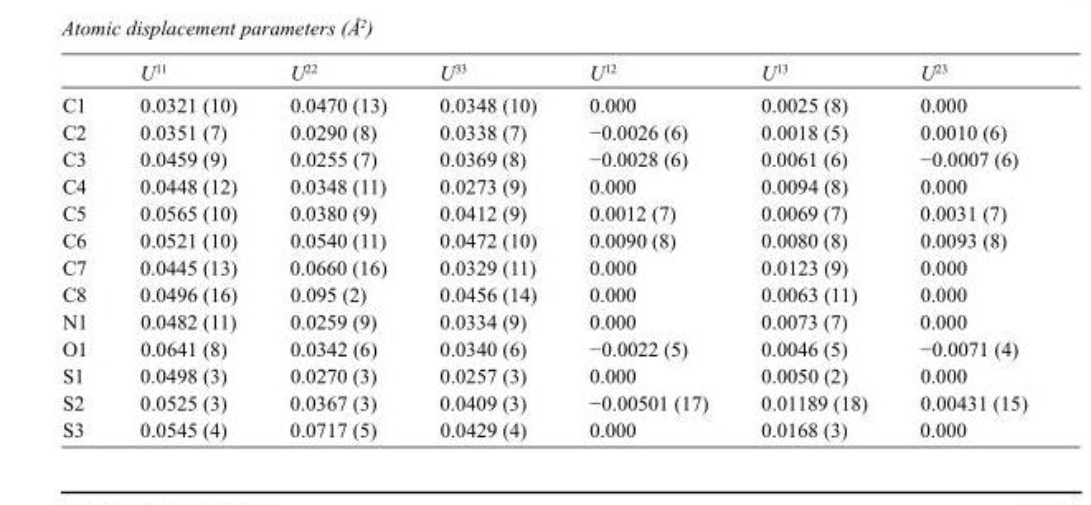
<table><thead><tr><td></td><td>U<sup>11</sup></td><td>U<sup>22</sup></td><td>U<sup>33</sup></td><td>U<sup>12</sup></td><td>U<sup>13</sup></td><td>U<sup>23</sup></td></tr></thead><tbody><tr><td>C1</td><td>0.0321 (10)</td><td>0.0470 (13)</td><td>0.0348 (10)</td><td>0.000</td><td>0.0025 (8)</td><td>0.000</td></tr><tr><td>C2</td><td>0.0351 (7)</td><td>0.0290 (8)</td><td>0.0338 (7)</td><td>−0.0026 (6)</td><td>0.0018 (5)</td><td>0.0010 (6)</td></tr><tr><td>C3</td><td>0.0459 (9)</td><td>0.0255 (7)</td><td>0.0369 (8)</td><td>−0.0028 (6)</td><td>0.0061 (6)</td><td>−0.0007 (6)</td></tr><tr><td>C4</td><td>0.0448 (12)</td><td>0.0348 (11)</td><td>0.0273 (9)</td><td>0.000</td><td>0.0094 (8)</td><td>0.000</td></tr><tr><td>C5</td><td>0.0565 (10)</td><td>0.0380 (9)</td><td>0.0412 (9)</td><td>0.0012 (7)</td><td>0.0069 (7)</td><td>0.0031 (7)</td></tr><tr><td>C6</td><td>0.0521 (10)</td><td>0.0540 (11)</td><td>0.0472 (10)</td><td>0.0090 (8)</td><td>0.0080 (8)</td><td>0.0093 (8)</td></tr><tr><td>C7</td><td>0.0445 (13)</td><td>0.0660 (16)</td><td>0.0329 (11)</td><td>0.000</td><td>0.0123 (9)</td><td>0.000</td></tr><tr><td>C8</td><td>0.0496 (16)</td><td>0.095 (2)</td><td>0.0456 (14)</td><td>0.000</td><td>0.0063 (11)</td><td>0.000</td></tr><tr><td>N1</td><td>0.0482 (11)</td><td>0.0259 (9)</td><td>0.0334 (9)</td><td>0.000</td><td>0.0073 (7)</td><td>0.000</td></tr><tr><td>O1</td><td>0.0641 (8)</td><td>0.0342 (6)</td><td>0.0340 (6)</td><td>−0.0022 (5)</td><td>0.0046 (5)</td><td>−0.0071 (4)</td></tr><tr><td>S1</td><td>0.0498 (3)</td><td>0.0270 (3)</td><td>0.0257 (3)</td><td>0.000</td><td>0.0050 (2)</td><td>0.000</td></tr><tr><td>S2</td><td>0.0525 (3)</td><td>0.0367 (3)</td><td>0.0409 (3)</td><td>−0.00501 (17)</td><td>0.01189 (18)</td><td>0.00431 (15)</td></tr><tr><td>S3</td><td>0.0545 (4)</td><td>0.0717 (5)</td><td>0.0429 (4)</td><td>0.000</td><td>0.0168 (3)</td><td>0.000</td></tr></tbody></table>